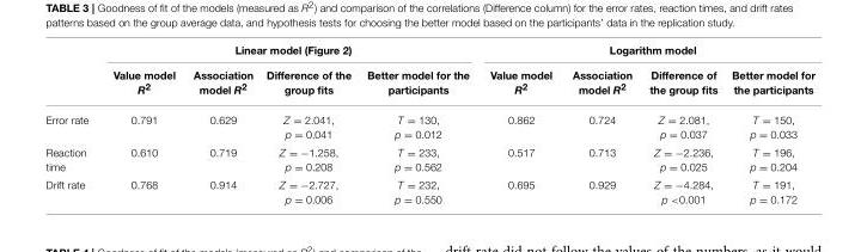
<table><thead><tr><td rowspan="2"></td><td colspan="4">Linear model (Figure 2)</td><td colspan="4">Logarithm model</td></tr><tr><td>Value model R<sup>2</sup></td><td>Association model R<sup>2</sup></td><td>Difference of the group fits</td><td>Better model for the participants</td><td>Value model R<sup>2</sup></td><td>Association model R<sup>2</sup></td><td>Difference of the group fits</td><td>Better model for the participants</td></tr></thead><tbody><tr><td>Error rate</td><td>0.791</td><td>0.629</td><td>Z = 2.041, p = 0.041</td><td>T = 130, p = 0.012</td><td>0.862</td><td>0.724</td><td>Z = 2.081, p = 0.037</td><td>T = 150, p = 0.033</td></tr><tr><td>Reaction time</td><td>0.610</td><td>0.719</td><td>Z = −1.258, p = 0.208</td><td>T = 233, p = 0.562</td><td>0.517</td><td>0.713</td><td>Z = −2.236, p = 0.025</td><td>T = 196, p = 0.204</td></tr><tr><td>Drift rate</td><td>0.768</td><td>0.914</td><td>Z = −2.727, p = 0.006</td><td>T = 232, p = 0.550</td><td>0.695</td><td>0.929</td><td>Z = −4.284, p &lt;0.001</td><td>T = 191, p = 0.172</td></tr></tbody></table>